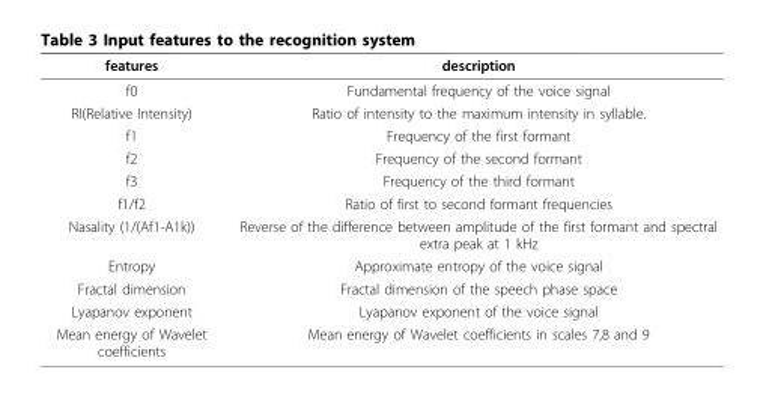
<table><thead><tr><td>features</td><td>description</td></tr></thead><tbody><tr><td>f0</td><td>Fundamental frequency of the voice signal</td></tr><tr><td>RI(Relative Intensity)</td><td>Ratio of intensity to the maximum intensity in syllable.</td></tr><tr><td>f1</td><td>Frequency of the first formant</td></tr><tr><td>f2</td><td>Frequency of the second formant</td></tr><tr><td>f3</td><td>Frequency of the third formant</td></tr><tr><td>f1/f2</td><td>Ratio of first to second formant frequencies</td></tr><tr><td>Nasality (1/(Af1-A1k))</td><td>Reverse of the difference between amplitude of the first formant and spectral extra peak at 1 kHz</td></tr><tr><td>Entropy</td><td>Approximate entropy of the voice signal</td></tr><tr><td>Fractal dimension</td><td>Fractal dimension of the speech phase space</td></tr><tr><td>Lyapanov exponent</td><td>Lyapanov exponent of the voice signal</td></tr><tr><td>Mean energy of Wavelet coefficients</td><td>Mean energy of Wavelet coefficients in scales 7,8 and 9</td></tr></tbody></table>